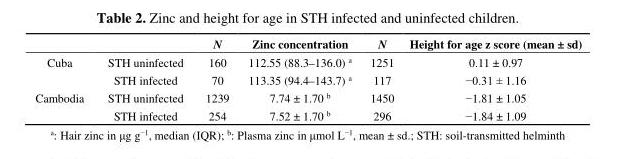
<table><thead><tr><td></td><td></td><td>N</td><td>Zinc concentration</td><td>N</td><td>Height for age z score (mean ± sd)</td></tr></thead><tbody><tr><td rowspan="2">Cuba</td><td>STH uninfected</td><td>160</td><td>112.55 (88.3–136.0) <sup>a</sup></td><td>1251</td><td>0.11 ± 0.97</td></tr><tr><td>STH infected</td><td>70</td><td>113.35 (94.4–143.7) <sup>a</sup></td><td>117</td><td>−0.31 ± 1.16</td></tr><tr><td rowspan="2">Cambodia</td><td>STH uninfected</td><td>1239</td><td>7.74 ± 1.70 <sup>b</sup></td><td>1450</td><td>−1.81 ± 1.05</td></tr><tr><td>STH infected</td><td>254</td><td>7.52 ± 1.70 <sup>b</sup></td><td>296</td><td>−1.84 ± 1.09</td></tr></tbody></table>